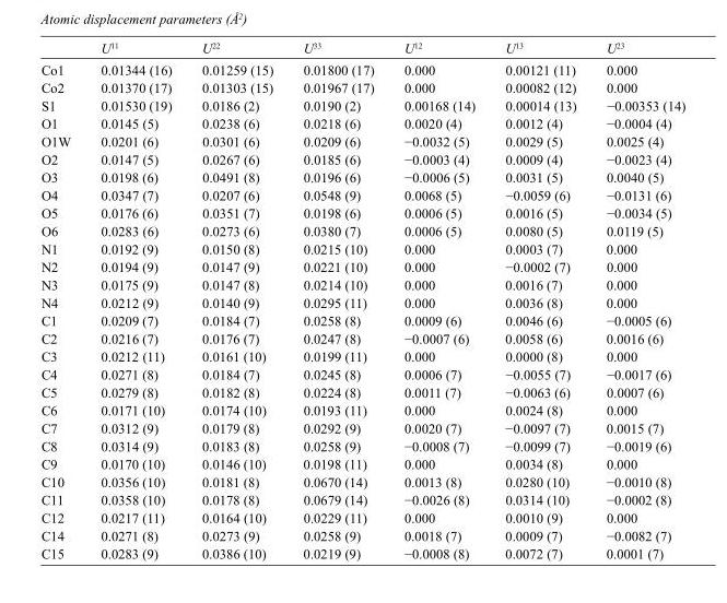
<table><thead><tr><td></td><td>U<sup>11</sup></td><td>U<sup>22</sup></td><td>U<sup>33</sup></td><td>U<sup>12</sup></td><td>U<sup>13</sup></td><td>U<sup>23</sup></td></tr></thead><tbody><tr><td>Co1</td><td>0.01344 (16)</td><td>0.01259 (15)</td><td>0.01800 (17)</td><td>0.000</td><td>0.00121 (11)</td><td>0.000</td></tr><tr><td>Co2</td><td>0.01370 (17)</td><td>0.01303 (15)</td><td>0.01967 (17)</td><td>0.000</td><td>0.00082 (12)</td><td>0.000</td></tr><tr><td>S1</td><td>0.01530 (19)</td><td>0.0186 (2)</td><td>0.0190 (2)</td><td>0.00168 (14)</td><td>0.00014 (13)</td><td>−0.00353 (14)</td></tr><tr><td>O1</td><td>0.0145 (5)</td><td>0.0238 (6)</td><td>0.0218 (6)</td><td>0.0020 (4)</td><td>0.0012 (4)</td><td>−0.0004 (4)</td></tr><tr><td>O1W</td><td>0.0201 (6)</td><td>0.0301 (6)</td><td>0.0209 (6)</td><td>−0.0032 (5)</td><td>0.0029 (5)</td><td>0.0025 (4)</td></tr><tr><td>O2</td><td>0.0147 (5)</td><td>0.0267 (6)</td><td>0.0185 (6)</td><td>−0.0003 (4)</td><td>0.0009 (4)</td><td>−0.0023 (4)</td></tr><tr><td>O3</td><td>0.0198 (6)</td><td>0.0491 (8)</td><td>0.0196 (6)</td><td>−0.0006 (5)</td><td>0.0031 (5)</td><td>0.0040 (5)</td></tr><tr><td>O4</td><td>0.0347 (7)</td><td>0.0207 (6)</td><td>0.0548 (9)</td><td>0.0068 (5)</td><td>−0.0059 (6)</td><td>−0.0131 (6)</td></tr><tr><td>O5</td><td>0.0176 (6)</td><td>0.0351 (7)</td><td>0.0198 (6)</td><td>0.0006 (5)</td><td>0.0016 (5)</td><td>−0.0034 (5)</td></tr><tr><td>O6</td><td>0.0283 (6)</td><td>0.0273 (6)</td><td>0.0380 (7)</td><td>0.0006 (5)</td><td>0.0080 (5)</td><td>0.0119 (5)</td></tr><tr><td>N1</td><td>0.0192 (9)</td><td>0.0150 (8)</td><td>0.0215 (10)</td><td>0.000</td><td>0.0003 (7)</td><td>0.000</td></tr><tr><td>N2</td><td>0.0194 (9)</td><td>0.0147 (9)</td><td>0.0221 (10)</td><td>0.000</td><td>−0.0002 (7)</td><td>0.000</td></tr><tr><td>N3</td><td>0.0175 (9)</td><td>0.0147 (8)</td><td>0.0214 (10)</td><td>0.000</td><td>0.0016 (7)</td><td>0.000</td></tr><tr><td>N4</td><td>0.0212 (9)</td><td>0.0140 (9)</td><td>0.0295 (11)</td><td>0.000</td><td>0.0036 (8)</td><td>0.000</td></tr><tr><td>C1</td><td>0.0209 (7)</td><td>0.0184 (7)</td><td>0.0258 (8)</td><td>0.0009 (6)</td><td>0.0046 (6)</td><td>−0.0005 (6)</td></tr><tr><td>C2</td><td>0.0216 (7)</td><td>0.0176 (7)</td><td>0.0247 (8)</td><td>−0.0007 (6)</td><td>0.0058 (6)</td><td>0.0016 (6)</td></tr><tr><td>C3</td><td>0.0212 (11)</td><td>0.0161 (10)</td><td>0.0199 (11)</td><td>0.000</td><td>0.0000 (8)</td><td>0.000</td></tr><tr><td>C4</td><td>0.0271 (8)</td><td>0.0184 (7)</td><td>0.0245 (8)</td><td>0.0006 (7)</td><td>−0.0055 (7)</td><td>−0.0017 (6)</td></tr><tr><td>C5</td><td>0.0279 (8)</td><td>0.0182 (8)</td><td>0.0224 (8)</td><td>0.0011 (7)</td><td>−0.0063 (6)</td><td>0.0007 (6)</td></tr><tr><td>C6</td><td>0.0171 (10)</td><td>0.0174 (10)</td><td>0.0193 (11)</td><td>0.000</td><td>0.0024 (8)</td><td>0.000</td></tr><tr><td>C7</td><td>0.0312 (9)</td><td>0.0179 (8)</td><td>0.0292 (9)</td><td>0.0020 (7)</td><td>−0.0097 (7)</td><td>0.0015 (7)</td></tr><tr><td>C8</td><td>0.0314 (9)</td><td>0.0183 (8)</td><td>0.0258 (9)</td><td>−0.0008 (7)</td><td>−0.0099 (7)</td><td>−0.0019 (6)</td></tr><tr><td>C9</td><td>0.0170 (10)</td><td>0.0146 (10)</td><td>0.0198 (11)</td><td>0.000</td><td>0.0034 (8)</td><td>0.000</td></tr><tr><td>C10</td><td>0.0356 (10)</td><td>0.0181 (8)</td><td>0.0670 (14)</td><td>0.0013 (8)</td><td>0.0280 (10)</td><td>−0.0010 (8)</td></tr><tr><td>C11</td><td>0.0358 (10)</td><td>0.0178 (8)</td><td>0.0679 (14)</td><td>−0.0026 (8)</td><td>0.0314 (10)</td><td>−0.0002 (8)</td></tr><tr><td>C12</td><td>0.0217 (11)</td><td>0.0164 (10)</td><td>0.0229 (11)</td><td>0.000</td><td>0.0010 (9)</td><td>0.000</td></tr><tr><td>C14</td><td>0.0271 (8)</td><td>0.0273 (9)</td><td>0.0258 (9)</td><td>0.0018 (7)</td><td>0.0009 (7)</td><td>−0.0082 (7)</td></tr><tr><td>C15</td><td>0.0283 (9)</td><td>0.0386 (10)</td><td>0.0219 (9)</td><td>−0.0008 (8)</td><td>0.0072 (7)</td><td>0.0001 (7)</td></tr></tbody></table>